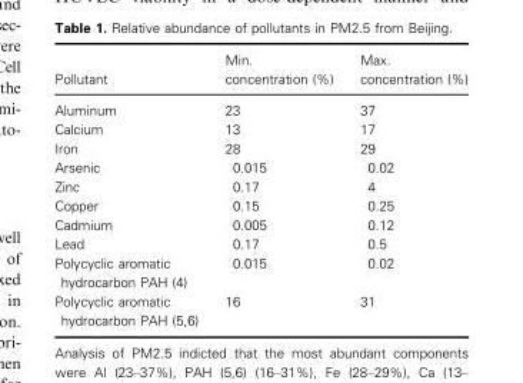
<table><thead><tr><td>Pollutant</td><td>Min. concentration (%)</td><td>Max. concentration (%)</td></tr></thead><tbody><tr><td>Aluminum</td><td>23</td><td>37</td></tr><tr><td>Calcium</td><td>13</td><td>17</td></tr><tr><td>Iron</td><td>28</td><td>29</td></tr><tr><td>Arsenic</td><td>0.015</td><td>0.02</td></tr><tr><td>Zinc</td><td>0.17</td><td>4</td></tr><tr><td>Copper</td><td>0.15</td><td>0.25</td></tr><tr><td>Cadmium</td><td>0.005</td><td>0.12</td></tr><tr><td>Lead</td><td>0.17</td><td>0.5</td></tr><tr><td>Polycyclic aromatic hydrocarbon PAH (4)</td><td>0.015</td><td>0.02</td></tr><tr><td>Polycyclic aromatic hydrocarbon PAH (5,6)</td><td>16</td><td>31</td></tr></tbody></table>